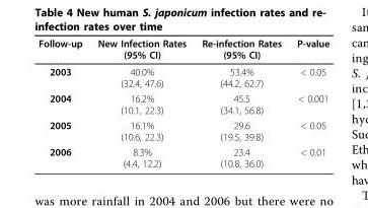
<table><thead><tr><td>Follow-up</td><td>New Infection Rates (95% CI)</td><td>Re-infection Rates (95% CI)</td><td>P-value</td></tr></thead><tbody><tr><td>2003</td><td>40.0% (32.4, 47.6)</td><td>53.4% (44.2, 62.7)</td><td>&lt; 0.05</td></tr><tr><td>2004</td><td>16.2% (10.1, 22.3)</td><td>45.5 (34.1, 56.8)</td><td>&lt; 0.001</td></tr><tr><td>2005</td><td>16.1% (10.6, 22.3)</td><td>29.6 (19.5, 39.8)</td><td>&lt; 0.05</td></tr><tr><td>2006</td><td>8.3% (4.4, 12.2)</td><td>23.4 (10.8, 36.0)</td><td>&lt; 0.01</td></tr></tbody></table>